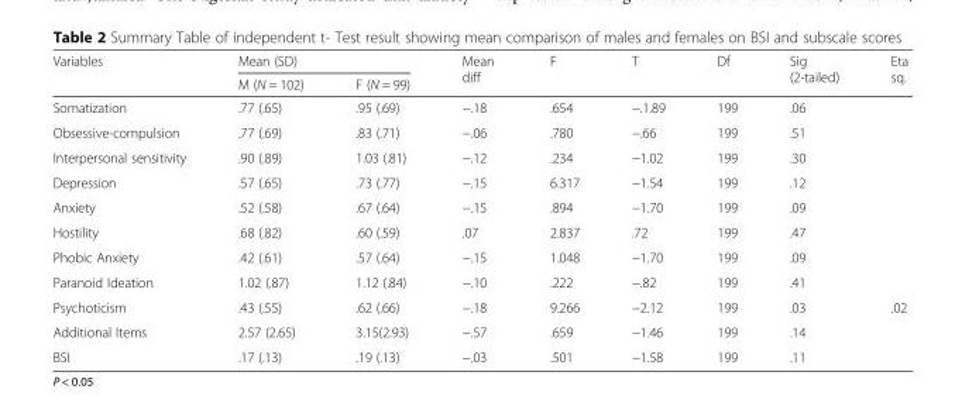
<table><thead><tr><td rowspan="2">Variables</td><td colspan="2">Mean (SD)</td><td rowspan="2">Mean diff</td><td rowspan="2">F</td><td rowspan="2">T</td><td rowspan="2">Df</td><td rowspan="2">Sig (2-tailed)</td><td rowspan="2">Eta sq.</td></tr><tr><td>M (N = 102)</td><td>F (N = 99)</td></tr></thead><tbody><tr><td>Somatization</td><td>.77 (.65)</td><td>.95 (.69)</td><td>−.18</td><td>.654</td><td>−.1.89</td><td>199</td><td>.06</td><td></td></tr><tr><td>Obsessive-compulsion</td><td>.77 (.69)</td><td>.83 (.71)</td><td>−.06</td><td>.780</td><td>−.66</td><td>199</td><td>.51</td><td></td></tr><tr><td>Interpersonal sensitivity</td><td>.90 (.89)</td><td>1.03 (.81)</td><td>−.12</td><td>.234</td><td>−1.02</td><td>199</td><td>.30</td><td></td></tr><tr><td>Depression</td><td>.57 (.65)</td><td>.73 (.77)</td><td>−.15</td><td>6.317</td><td>−1.54</td><td>199</td><td>.12</td><td></td></tr><tr><td>Anxiety</td><td>.52 (.58)</td><td>.67 (.64)</td><td>−.15</td><td>.894</td><td>−1.70</td><td>199</td><td>.09</td><td></td></tr><tr><td>Hostility</td><td>.68 (.82)</td><td>.60 (.59)</td><td>.07</td><td>2.837</td><td>.72</td><td>199</td><td>.47</td><td></td></tr><tr><td>Phobic Anxiety</td><td>.42 (.61)</td><td>.57 (.64)</td><td>−.15</td><td>1.048</td><td>−1.70</td><td>199</td><td>.09</td><td></td></tr><tr><td>Paranoid Ideation</td><td>1.02 (.87)</td><td>1.12 (.84)</td><td>−.10</td><td>.222</td><td>−.82</td><td>199</td><td>.41</td><td></td></tr><tr><td>Psychoticism</td><td>.43 (.55)</td><td>.62 (.66)</td><td>−.18</td><td>9.266</td><td>−2.12</td><td>199</td><td>.03</td><td>.02</td></tr><tr><td>Additional Items</td><td>2.57 (2.65)</td><td>3.15(2.93)</td><td>−.57</td><td>.659</td><td>−1.46</td><td>199</td><td>.14</td><td></td></tr><tr><td>BSI</td><td>.17 (.13)</td><td>.19 (.13)</td><td>−.03</td><td>.501</td><td>−1.58</td><td>199</td><td>.11</td><td></td></tr></tbody></table>